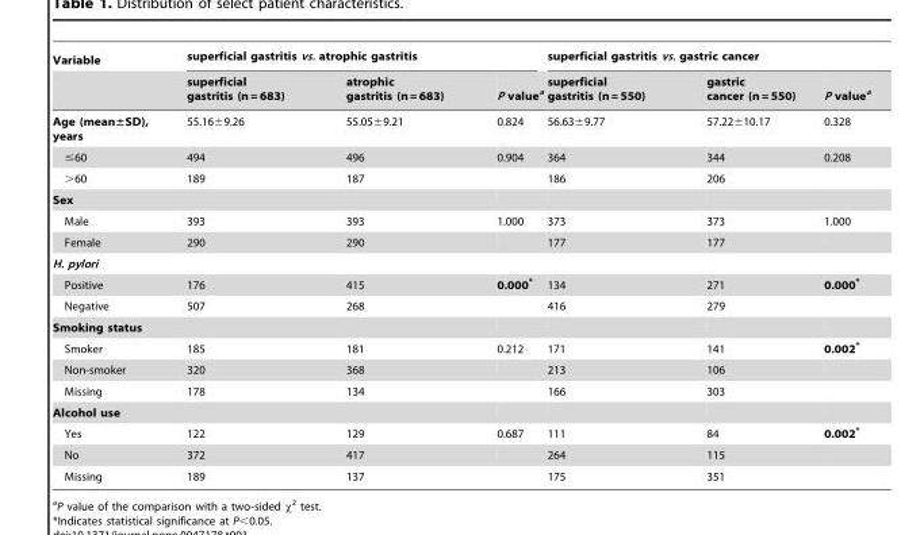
<table><thead><tr><td rowspan="2">Variable</td><td colspan="3">superficial gastritis vs. atrophic gastritis</td><td colspan="3">superficial gastritis vs. gastric cancer</td></tr><tr><td>superficial gastritis (n = 683)</td><td>atrophic gastritis (n = 683)</td><td>P value<sup>a</sup></td><td>superficial gastritis (n = 550)</td><td>gastric cancer (n = 550)</td><td>P value<sup>a</sup></td></tr></thead><tbody><tr><td>Age (mean±SD), years</td><td>55.16±9.26</td><td>55.05±9.21</td><td>0.824</td><td>56.63±9.77</td><td>57.22±10.17</td><td>0.328</td></tr><tr><td>≤60</td><td>494</td><td>496</td><td>0.904</td><td>364</td><td>344</td><td>0.208</td></tr><tr><td>&gt;60</td><td>189</td><td>187</td><td></td><td>186</td><td>206</td><td></td></tr><tr><td colspan="7">Sex</td></tr><tr><td>Male</td><td>393</td><td>393</td><td>1.000</td><td>373</td><td>373</td><td>1.000</td></tr><tr><td>Female</td><td>290</td><td>290</td><td></td><td>177</td><td>177</td><td></td></tr><tr><td colspan="7">H. pylori</td></tr><tr><td>Positive</td><td>176</td><td>415</td><td>0.000*</td><td>134</td><td>271</td><td>0.000*</td></tr><tr><td>Negative</td><td>507</td><td>268</td><td></td><td>416</td><td>279</td><td></td></tr><tr><td colspan="7">Smoking status</td></tr><tr><td>Smoker</td><td>185</td><td>181</td><td>0.212</td><td>171</td><td>141</td><td>0.002*</td></tr><tr><td>Non-smoker</td><td>320</td><td>368</td><td></td><td>213</td><td>106</td><td></td></tr><tr><td>Missing</td><td>178</td><td>134</td><td></td><td>166</td><td>303</td><td></td></tr><tr><td colspan="7">Alcohol use</td></tr><tr><td>Yes</td><td>122</td><td>129</td><td>0.687</td><td>111</td><td>84</td><td>0.002*</td></tr><tr><td>No</td><td>372</td><td>417</td><td></td><td>264</td><td>115</td><td></td></tr><tr><td>Missing</td><td>189</td><td>137</td><td></td><td>175</td><td>351</td><td></td></tr></tbody></table>